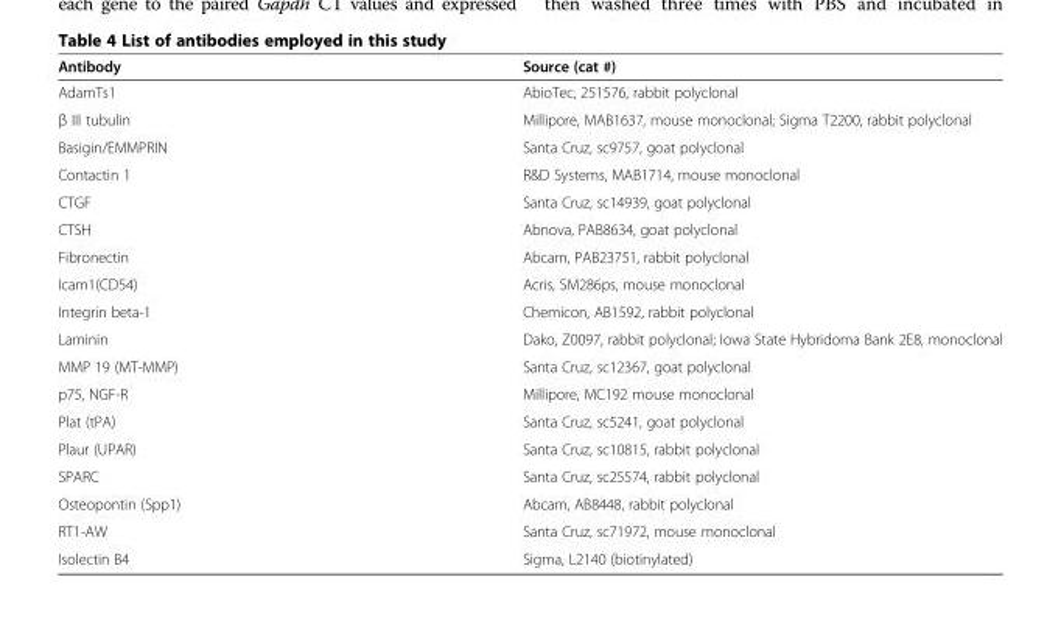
<table><thead><tr><td>Antibody</td><td>Source (cat #)</td></tr></thead><tbody><tr><td>AdamTs1</td><td>AbioTec, 251576, rabbit polyclonal</td></tr><tr><td>β III tubulin</td><td>Millipore, MAB1637, mouse monoclonal; Sigma T2200, rabbit polyclonal</td></tr><tr><td>Basigin/EMMPRIN</td><td>Santa Cruz, sc9757, goat polyclonal</td></tr><tr><td>Contactin 1</td><td>R&amp;D Systems, MAB1714, mouse monoclonal</td></tr><tr><td>CTGF</td><td>Santa Cruz, sc14939, goat polyclonal</td></tr><tr><td>CTSH</td><td>Abnova, PAB8634, goat polyclonal</td></tr><tr><td>Fibronectin</td><td>Abcam, PAB23751, rabbit polyclonal</td></tr><tr><td>Icam1(CD54)</td><td>Acris, SM286ps, mouse monoclonal</td></tr><tr><td>Integrin beta-1</td><td>Chemicon, AB1592, rabbit polyclonal</td></tr><tr><td>Laminin</td><td>Dako, Z0097, rabbit polyclonal; Iowa State Hybridoma Bank 2E8, monoclonal</td></tr><tr><td>MMP 19 (MT-MMP)</td><td>Santa Cruz, sc12367, goat polyclonal</td></tr><tr><td>p75, NGF-R</td><td>Millipore, MC192 mouse monoclonal</td></tr><tr><td>Plat (tPA)</td><td>Santa Cruz, sc5241, goat polyclonal</td></tr><tr><td>Plaur (UPAR)</td><td>Santa Cruz, sc10815, rabbit polyclonal</td></tr><tr><td>SPARC</td><td>Santa Cruz, sc25574, rabbit polyclonal</td></tr><tr><td>Osteopontin (Spp1)</td><td>Abcam, AB8448, rabbit polyclonal</td></tr><tr><td>RT1-AW</td><td>Santa Cruz, sc71972, mouse monoclonal</td></tr><tr><td>Isolectin B4</td><td>Sigma, L2140 (biotinylated)</td></tr></tbody></table>